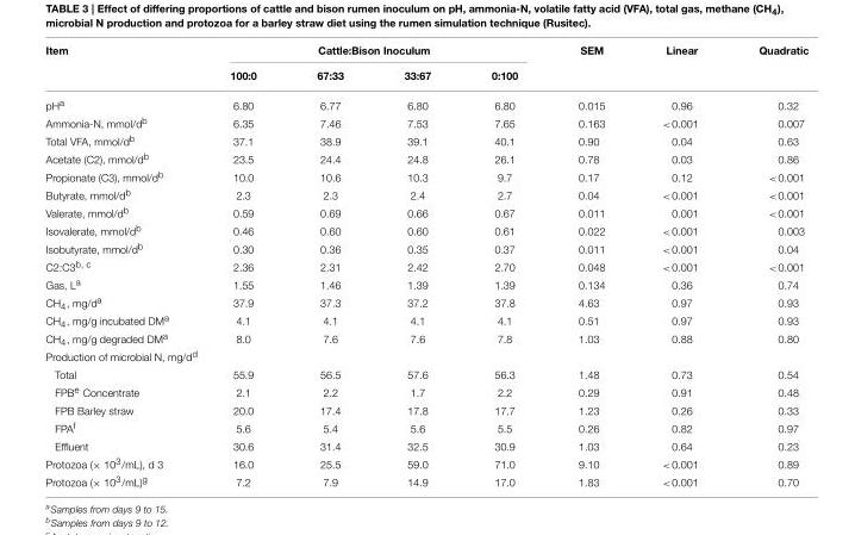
<table><thead><tr><td rowspan="2">Item</td><td colspan="4">Cattle:Bison Inoculum</td><td rowspan="2">SEM</td><td rowspan="2">Linear</td><td rowspan="2">Quadratic</td></tr><tr><td>100:0</td><td>67:33</td><td>33:67</td><td>0:100</td></tr></thead><tbody><tr><td>pH<sup>a</sup></td><td>6.80</td><td>6.77</td><td>6.80</td><td>6.80</td><td>0.015</td><td>0.96</td><td>0.32</td></tr><tr><td>Ammonia-N, mmol/d<sup>b</sup></td><td>6.35</td><td>7.46</td><td>7.53</td><td>7.65</td><td>0.163</td><td>&lt;0.001</td><td>0.007</td></tr><tr><td>Total VFA, mmol/d<sup>b</sup></td><td>37.1</td><td>38.9</td><td>39.1</td><td>40.1</td><td>0.90</td><td>0.04</td><td>0.63</td></tr><tr><td>Acetate (C2), mmol/d<sup>b</sup></td><td>23.5</td><td>24.4</td><td>24.8</td><td>26.1</td><td>0.78</td><td>0.03</td><td>0.86</td></tr><tr><td>Propionate (C3), mmol/d<sup>b</sup></td><td>10.0</td><td>10.6</td><td>10.3</td><td>9.7</td><td>0.17</td><td>0.12</td><td>&lt;0.001</td></tr><tr><td>Butyrate, mmol/d<sup>b</sup></td><td>2.3</td><td>2.3</td><td>2.4</td><td>2.7</td><td>0.04</td><td>&lt;0.001</td><td>&lt;0.001</td></tr><tr><td>Valerate, mmol/d<sup>b</sup></td><td>0.59</td><td>0.69</td><td>0.66</td><td>0.67</td><td>0.011</td><td>0.001</td><td>&lt;0.001</td></tr><tr><td>Isovalerate, mmol/d<sup>b</sup></td><td>0.46</td><td>0.60</td><td>0.60</td><td>0.61</td><td>0.022</td><td>&lt;0.001</td><td>0.003</td></tr><tr><td>Isobutyrate, mmol/d<sup>b</sup></td><td>0.30</td><td>0.36</td><td>0.35</td><td>0.37</td><td>0.011</td><td>&lt;0.001</td><td>0.04</td></tr><tr><td>C2:C3<sup>b, c</sup></td><td>2.36</td><td>2.31</td><td>2.42</td><td>2.70</td><td>0.048</td><td>&lt;0.001</td><td>&lt;0.001</td></tr><tr><td>Gas, L<sup>a</sup></td><td>1.55</td><td>1.46</td><td>1.39</td><td>1.39</td><td>0.134</td><td>0.36</td><td>0.74</td></tr><tr><td>CH<sub>4</sub>, mg/d<sup>a</sup></td><td>37.9</td><td>37.3</td><td>37.2</td><td>37.8</td><td>4.63</td><td>0.97</td><td>0.93</td></tr><tr><td>CH<sub>4</sub>, mg/g incubated DM<sup>a</sup></td><td>4.1</td><td>4.1</td><td>4.1</td><td>4.1</td><td>0.51</td><td>0.97</td><td>0.93</td></tr><tr><td>CH<sub>4</sub>, mg/g degraded DM<sup>a</sup></td><td>8.0</td><td>7.6</td><td>7.6</td><td>7.8</td><td>1.03</td><td>0.88</td><td>0.80</td></tr><tr><td colspan="8">Production of microbial N, mg/d<sup>d</sup></td></tr><tr><td>Total</td><td>55.9</td><td>56.5</td><td>57.6</td><td>56.3</td><td>1.48</td><td>0.73</td><td>0.54</td></tr><tr><td>FPB<sup>e</sup> Concentrate</td><td>2.1</td><td>2.2</td><td>1.7</td><td>2.2</td><td>0.29</td><td>0.91</td><td>0.48</td></tr><tr><td>FPB Barley straw</td><td>20.0</td><td>17.4</td><td>17.8</td><td>17.7</td><td>1.23</td><td>0.26</td><td>0.33</td></tr><tr><td>FPA<sup>f</sup></td><td>5.6</td><td>5.4</td><td>5.6</td><td>5.5</td><td>0.26</td><td>0.82</td><td>0.97</td></tr><tr><td>Effluent</td><td>30.6</td><td>31.4</td><td>32.5</td><td>30.9</td><td>1.03</td><td>0.64</td><td>0.23</td></tr><tr><td>Protozoa (× 10<sup>3</sup>/mL), d 3</td><td>16.0</td><td>25.5</td><td>59.0</td><td>71.0</td><td>9.10</td><td>&lt;0.001</td><td>0.89</td></tr><tr><td>Protozoa (× 10<sup>3</sup>/mL)<sup>g</sup></td><td>7.2</td><td>7.9</td><td>14.9</td><td>17.0</td><td>1.83</td><td>&lt;0.001</td><td>0.70</td></tr></tbody></table>